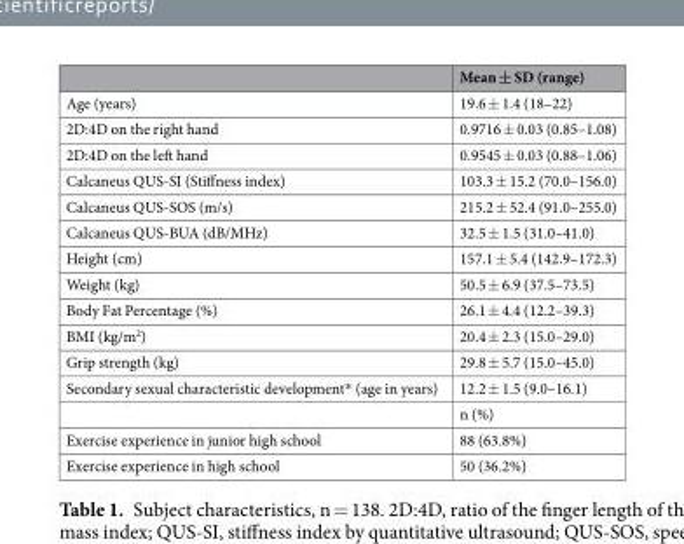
<table><thead><tr><td></td><td>Mean ± SD (range)</td></tr></thead><tbody><tr><td>Age (years)</td><td>19.6 ± 1.4 (18–22)</td></tr><tr><td>2D:4D on the right hand</td><td>0.9716 ± 0.03 (0.85–1.08)</td></tr><tr><td>2D:4D on the left hand</td><td>0.9545 ± 0.03 (0.88–1.06)</td></tr><tr><td>Calcaneus QUS-SI (Stiffness index)</td><td>103.3 ± 15.2 (70.0–156.0)</td></tr><tr><td>Calcaneus QUS-SOS (m/s)</td><td>215.2 ± 52.4 (91.0–255.0)</td></tr><tr><td>Calcaneus QUS-BUA (dB/MHz)</td><td>32.5 ± 1.5 (31.0–41.0)</td></tr><tr><td>Height (cm)</td><td>157.1 ± 5.4 (142.9–172.3)</td></tr><tr><td>Weight (kg)</td><td>50.5 ± 6.9 (37.5–73.5)</td></tr><tr><td>Body Fat Percentage (%)</td><td>26.1 ± 4.4 (12.2–39.3)</td></tr><tr><td>BMI (kg/m<sup>2</sup>)</td><td>20.4 ± 2.3 (15.0–29.0)</td></tr><tr><td>Grip strength (kg)</td><td>29.8 ± 5.7 (15.0–45.0)</td></tr><tr><td rowspan="2">Secondary sexual characteristic development* (age in years)</td><td>12.2 ± 1.5 (9.0–16.1)</td></tr><tr><td>n (%)</td></tr><tr><td>Exercise experience in junior high school</td><td>88 (63.8%)</td></tr><tr><td>Exercise experience in high school</td><td>50 (36.2%)</td></tr></tbody></table>